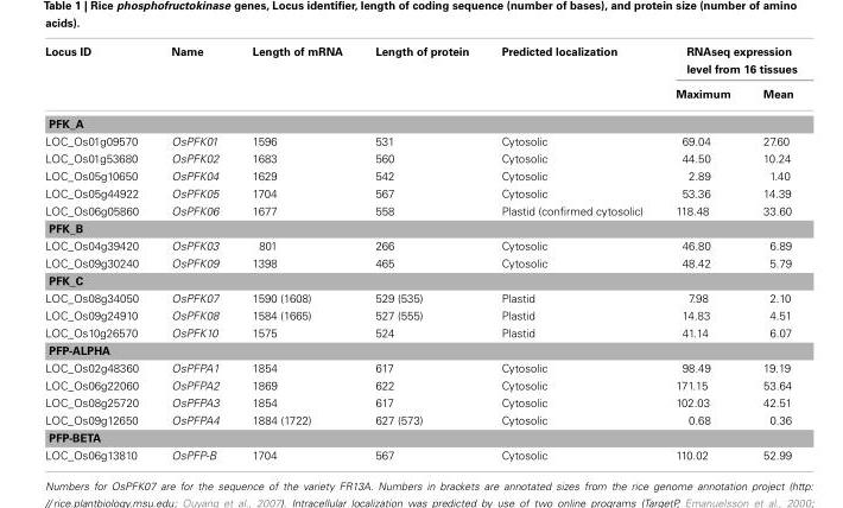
<table><thead><tr><td rowspan="2">Locus ID</td><td rowspan="2">Name</td><td rowspan="2">Length of mRNA</td><td rowspan="2">Length of protein</td><td rowspan="2">Predicted localization</td><td colspan="2">RNAseq expression level from 16 tissues</td></tr><tr><td>Maximum</td><td>Mean</td></tr></thead><tbody><tr><td colspan="7">PFK_A</td></tr><tr><td>LOC_Os01g09570</td><td>OsPFK01</td><td>1596</td><td>531</td><td>Cytosolic</td><td>69.04</td><td>27.60</td></tr><tr><td>LOC_Os01g53680</td><td>OsPFK02</td><td>1683</td><td>560</td><td>Cytosolic</td><td>44.50</td><td>10.24</td></tr><tr><td>LOC_Os05g10650</td><td>OsPFK04</td><td>1629</td><td>542</td><td>Cytosolic</td><td>2.89</td><td>1.40</td></tr><tr><td>LOC_Os05g44922</td><td>OsPFK05</td><td>1704</td><td>567</td><td>Cytosolic</td><td>53.36</td><td>14.39</td></tr><tr><td>LOC_Os06g05860</td><td>OsPFK06</td><td>1677</td><td>558</td><td>Plastid (confirmed cytosolic)</td><td>118.48</td><td>33.60</td></tr><tr><td colspan="7">PFK_B</td></tr><tr><td>LOC_Os04g39420</td><td>OsPFK03</td><td>801</td><td>266</td><td>Cytosolic</td><td>46.80</td><td>6.89</td></tr><tr><td>LOC_Os09g30240</td><td>OsPFK09</td><td>1398</td><td>465</td><td>Cytosolic</td><td>48.42</td><td>5.79</td></tr><tr><td colspan="7">PFK_C</td></tr><tr><td>LOC_Os08g34050</td><td>OsPFK07</td><td>1590 (1608)</td><td>529 (535)</td><td>Plastid</td><td>7.98</td><td>2.10</td></tr><tr><td>LOC_Os09g24910</td><td>OsPFK08</td><td>1584 (1665)</td><td>527 (555)</td><td>Plastid</td><td>14.83</td><td>4.51</td></tr><tr><td>LOC_Os10g26570</td><td>OsPFK10</td><td>1575</td><td>524</td><td>Plastid</td><td>41.14</td><td>6.07</td></tr><tr><td colspan="7">PFP-ALPHA</td></tr><tr><td>LOC_Os02g48360</td><td>OsPFPA1</td><td>1854</td><td>617</td><td>Cytosolic</td><td>98.49</td><td>19.19</td></tr><tr><td>LOC_Os06g22060</td><td>OsPFPA2</td><td>1869</td><td>622</td><td>Cytosolic</td><td>171.15</td><td>53.64</td></tr><tr><td>LOC_Os08g25720</td><td>OsPFPA3</td><td>1854</td><td>617</td><td>Cytosolic</td><td>102.03</td><td>42.51</td></tr><tr><td>LOC_Os09g12650</td><td>OsPFPA4</td><td>1884 (1722)</td><td>627 (573)</td><td>Cytosolic</td><td>0.68</td><td>0.36</td></tr><tr><td colspan="7">PFP-BETA</td></tr><tr><td>LOC_Os06g13810</td><td>OsPFP-B</td><td>1704</td><td>567</td><td>Cytosolic</td><td>110.02</td><td>52.99</td></tr></tbody></table>